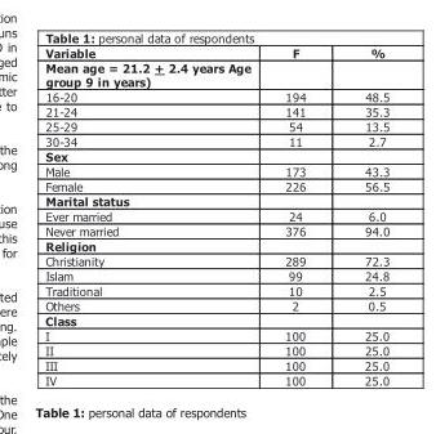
<table><thead><tr><td>Variable</td><td>F</td><td>%</td></tr></thead><tbody><tr><td colspan="3">Mean age = 21.2 + 2.4 years Age group 9 in years)</td></tr><tr><td>1620</td><td>194</td><td>48.5</td></tr><tr><td>2124</td><td>141</td><td>35.3</td></tr><tr><td>2529</td><td>54</td><td>13.5</td></tr><tr><td>3034</td><td>11</td><td>2.7</td></tr><tr><td colspan="3">Sex</td></tr><tr><td>Male</td><td>173</td><td>43.3</td></tr><tr><td>Female</td><td>226</td><td>56.5</td></tr><tr><td colspan="3">Marital status</td></tr><tr><td>Ever married</td><td>24</td><td>6.0</td></tr><tr><td>Never married</td><td>376</td><td>94.0</td></tr><tr><td colspan="3">Religion</td></tr><tr><td>Christianity</td><td>289</td><td>72.3</td></tr><tr><td>Islam</td><td>99</td><td>24.8</td></tr><tr><td>Traditional</td><td>10</td><td>2.5</td></tr><tr><td>Others</td><td>2</td><td>0.5</td></tr><tr><td colspan="3">Class</td></tr><tr><td>I</td><td>100</td><td>25.0</td></tr><tr><td>II</td><td>100</td><td>25.0</td></tr><tr><td>III</td><td>100</td><td>25.0</td></tr><tr><td>IV</td><td>100</td><td>25.0</td></tr></tbody></table>